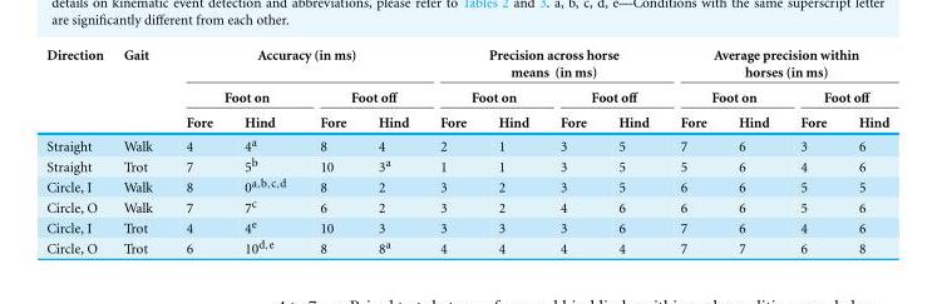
<table><thead><tr><td rowspan="3">Direction</td><td rowspan="3">Gait</td><td colspan="4">Accuracy (in ms)</td><td colspan="4">Precision across horse means (in ms)</td><td colspan="4">Average precision within horses (in ms)</td></tr><tr><td colspan="2">Foot on</td><td colspan="2">Foot off</td><td colspan="2">Foot on</td><td colspan="2">Foot off</td><td colspan="2">Foot on</td><td colspan="2">Foot off</td></tr><tr><td>Fore</td><td>Hind</td><td>Fore</td><td>Hind</td><td>Fore</td><td>Hind</td><td>Fore</td><td>Hind</td><td>Fore</td><td>Hind</td><td>Fore</td><td>Hind</td></tr></thead><tbody><tr><td>Straight</td><td>Walk</td><td>4</td><td>4<sup>a</sup></td><td>8</td><td>4</td><td>2</td><td>1</td><td>3</td><td>5</td><td>7</td><td>6</td><td>3</td><td>6</td></tr><tr><td>Straight</td><td>Trot</td><td>7</td><td>5<sup>b</sup></td><td>10</td><td>3<sup>a</sup></td><td>1</td><td>1</td><td>3</td><td>5</td><td>5</td><td>6</td><td>4</td><td>6</td></tr><tr><td>Circle, I</td><td>Walk</td><td>8</td><td>0<sup>a,b,c,d</sup></td><td>8</td><td>2</td><td>3</td><td>2</td><td>3</td><td>5</td><td>6</td><td>6</td><td>5</td><td>5</td></tr><tr><td>Circle, O</td><td>Walk</td><td>7</td><td>7<sup>c</sup></td><td>6</td><td>2</td><td>3</td><td>2</td><td>4</td><td>6</td><td>6</td><td>6</td><td>5</td><td>6</td></tr><tr><td>Circle, I</td><td>Trot</td><td>4</td><td>4<sup>e</sup></td><td>10</td><td>3</td><td>3</td><td>3</td><td>3</td><td>6</td><td>7</td><td>6</td><td>4</td><td>6</td></tr><tr><td>Circle, O</td><td>Trot</td><td>6</td><td>10<sup>d,e</sup></td><td>8</td><td>8<sup>a</sup></td><td>4</td><td>4</td><td>4</td><td>4</td><td>7</td><td>7</td><td>6</td><td>8</td></tr></tbody></table>